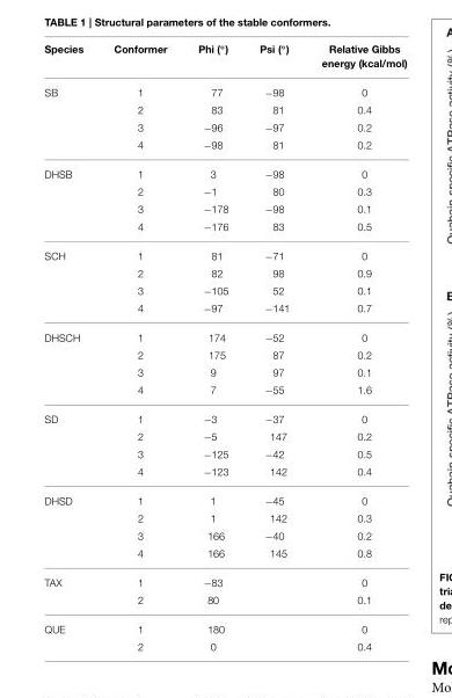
<table><thead><tr><td>Species</td><td>Conformer</td><td>Phi (◦)</td><td>Psi (◦)</td><td>Relative Gibbs energy (kcal/mol)</td></tr></thead><tbody><tr><td rowspan="4">SB</td><td>1</td><td>77</td><td>−98</td><td>0</td></tr><tr><td>2</td><td>83</td><td>81</td><td>0.4</td></tr><tr><td>3</td><td>−96</td><td>−97</td><td>0.2</td></tr><tr><td>4</td><td>−98</td><td>81</td><td>0.2</td></tr><tr><td rowspan="4">DHSB</td><td>1</td><td>3</td><td>−98</td><td>0</td></tr><tr><td>2</td><td>−1</td><td>80</td><td>0.3</td></tr><tr><td>3</td><td>−178</td><td>−98</td><td>0.1</td></tr><tr><td>4</td><td>−176</td><td>83</td><td>0.5</td></tr><tr><td rowspan="4">SCH</td><td>1</td><td>81</td><td>−71</td><td>0</td></tr><tr><td>2</td><td>82</td><td>98</td><td>0.9</td></tr><tr><td>3</td><td>−105</td><td>52</td><td>0.1</td></tr><tr><td>4</td><td>−97</td><td>−141</td><td>0.7</td></tr><tr><td rowspan="4">DHSCH</td><td>1</td><td>174</td><td>−52</td><td>0</td></tr><tr><td>2</td><td>175</td><td>87</td><td>0.2</td></tr><tr><td>3</td><td>9</td><td>97</td><td>0.1</td></tr><tr><td>4</td><td>7</td><td>−55</td><td>1.6</td></tr><tr><td rowspan="4">SD</td><td>1</td><td>−3</td><td>−37</td><td>0</td></tr><tr><td>2</td><td>−5</td><td>147</td><td>0.2</td></tr><tr><td>3</td><td>−125</td><td>−42</td><td>0.5</td></tr><tr><td>4</td><td>−123</td><td>142</td><td>0.4</td></tr><tr><td rowspan="4">DHSD</td><td>1</td><td>1</td><td>−45</td><td>0</td></tr><tr><td>2</td><td>1</td><td>142</td><td>0.3</td></tr><tr><td>3</td><td>166</td><td>−40</td><td>0.2</td></tr><tr><td>4</td><td>166</td><td>145</td><td>0.8</td></tr><tr><td rowspan="2">TAX</td><td>1</td><td>−83</td><td></td><td>0</td></tr><tr><td>2</td><td>80</td><td></td><td>0.1</td></tr><tr><td rowspan="2">QUE</td><td>1</td><td>180</td><td></td><td>0</td></tr><tr><td>2</td><td>0</td><td></td><td>0.4</td></tr></tbody></table>